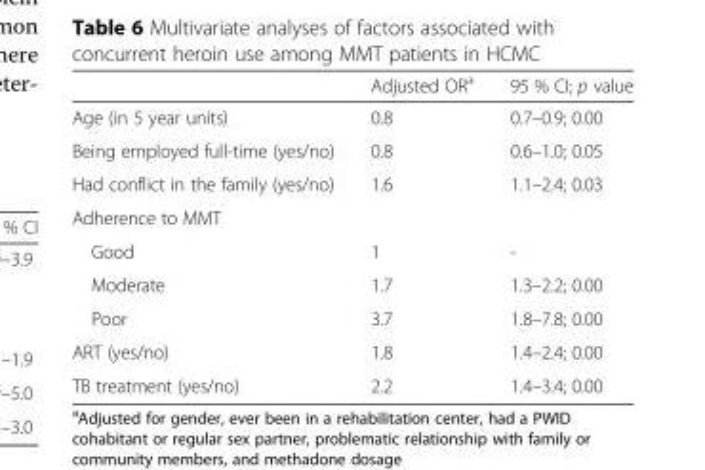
<table><thead><tr><td></td><td>Adjusted OR<sup>a</sup></td><td>95 % CI; p value</td></tr></thead><tbody><tr><td>Age (in 5 year units)</td><td>0.8</td><td>0.7–0.9; 0.00</td></tr><tr><td>Being employed full-time (yes/no)</td><td>0.8</td><td>0.6–1.0; 0.05</td></tr><tr><td>Had conflict in the family (yes/no)</td><td>1.6</td><td>1.1–2.4; 0.03</td></tr><tr><td colspan="3">Adherence to MMT</td></tr><tr><td>Good</td><td>1</td><td>-</td></tr><tr><td>Moderate</td><td>1.7</td><td>1.3–2.2; 0.00</td></tr><tr><td>Poor</td><td>3.7</td><td>1.8–7.8; 0.00</td></tr><tr><td>ART (yes/no)</td><td>1.8</td><td>1.4–2.4; 0.00</td></tr><tr><td>TB treatment (yes/no)</td><td>2.2</td><td>1.4–3.4; 0.00</td></tr></tbody></table>